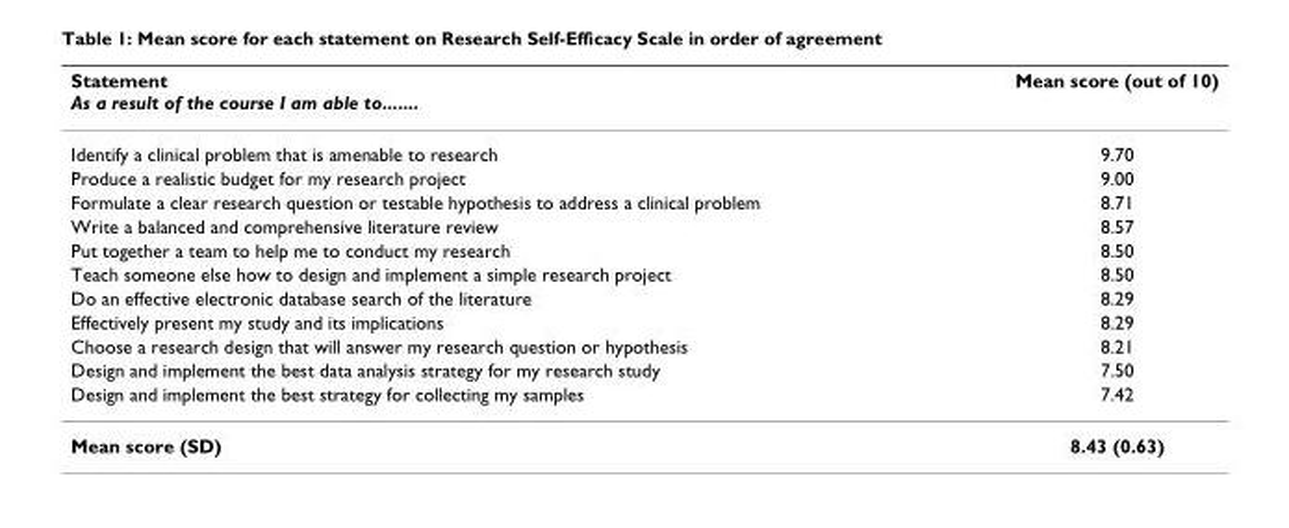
<table><thead><tr><td>Statement As a result of the course I am able to.......</td><td>Mean score (out of 10)</td></tr></thead><tbody><tr><td>Identify a clinical problem that is amenable to research</td><td>9.70</td></tr><tr><td>Produce a realistic budget for my research project</td><td>9.00</td></tr><tr><td>Formulate a clear research question or testable hypothesis to address a clinical problem</td><td>8.71</td></tr><tr><td>Write a balanced and comprehensive literature review</td><td>8.57</td></tr><tr><td>Put together a team to help me to conduct my research</td><td>8.50</td></tr><tr><td>Teach someone else how to design and implement a simple research project</td><td>8.50</td></tr><tr><td>Do an effective electronic database search of the literature</td><td>8.29</td></tr><tr><td>Effectively present my study and its implications</td><td>8.29</td></tr><tr><td>Choose a research design that will answer my research question or hypothesis</td><td>8.21</td></tr><tr><td>Design and implement the best data analysis strategy for my research study</td><td>7.50</td></tr><tr><td>Design and implement the best strategy for collecting my samples</td><td>7.42</td></tr><tr><td>Mean score (SD)</td><td>8.43 (0.63)</td></tr></tbody></table>